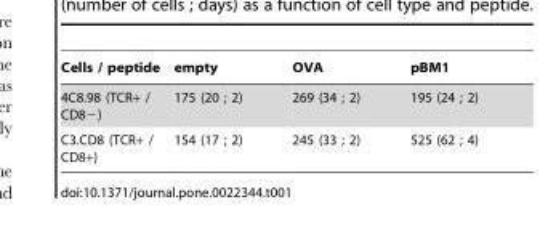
<table><thead><tr><td>Cells / peptide</td><td>empty</td><td>OVA</td><td>pBM1</td></tr></thead><tbody><tr><td>4C8.98 (TCR+ / CD8−)</td><td>175 (20 ; 2)</td><td>269 (34 ; 2)</td><td>195 (24 ; 2)</td></tr><tr><td>C3.CD8 (TCR+ / CD8+)</td><td>154 (17 ; 2)</td><td>245 (33 ; 2)</td><td>525 (62 ; 4)</td></tr></tbody></table>